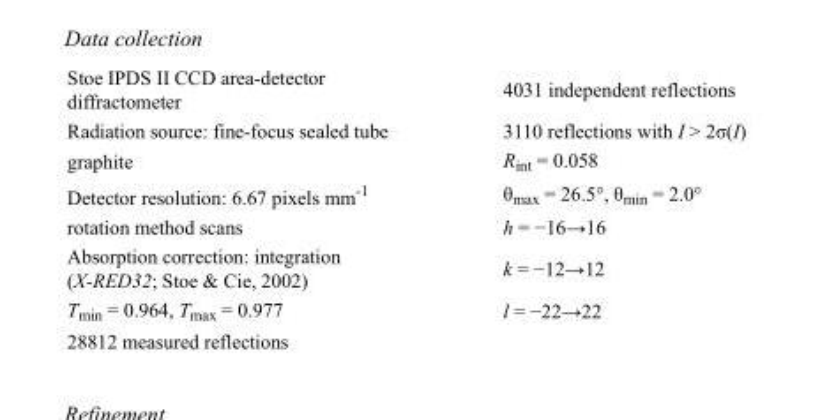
<table><tbody><tr><td>Stoe IPDS II CCD area-detector diffractometer</td><td>4031 independent reflections</td></tr><tr><td>Radiation source: fine-focus sealed tube</td><td>3110 reflections with I &gt; 2σ(I)</td></tr><tr><td>graphite</td><td>R<sub>int</sub> = 0.058</td></tr><tr><td>Detector resolution: 6.67 pixels mm<sup>-1</sup></td><td>θ<sub>max</sub> = 26.5°, θ<sub>min</sub> = 2.0°</td></tr><tr><td>rotation method scans</td><td>h = −16→16</td></tr><tr><td>Absorption correction: integration (X-RED32; Stoe &amp; Cie, 2002)</td><td>k = −12→12</td></tr><tr><td>T<sub>min</sub> = 0.964, T<sub>max</sub> = 0.977</td><td>l = −22→22</td></tr><tr><td>28812 measured reflections</td><td></td></tr></tbody></table>